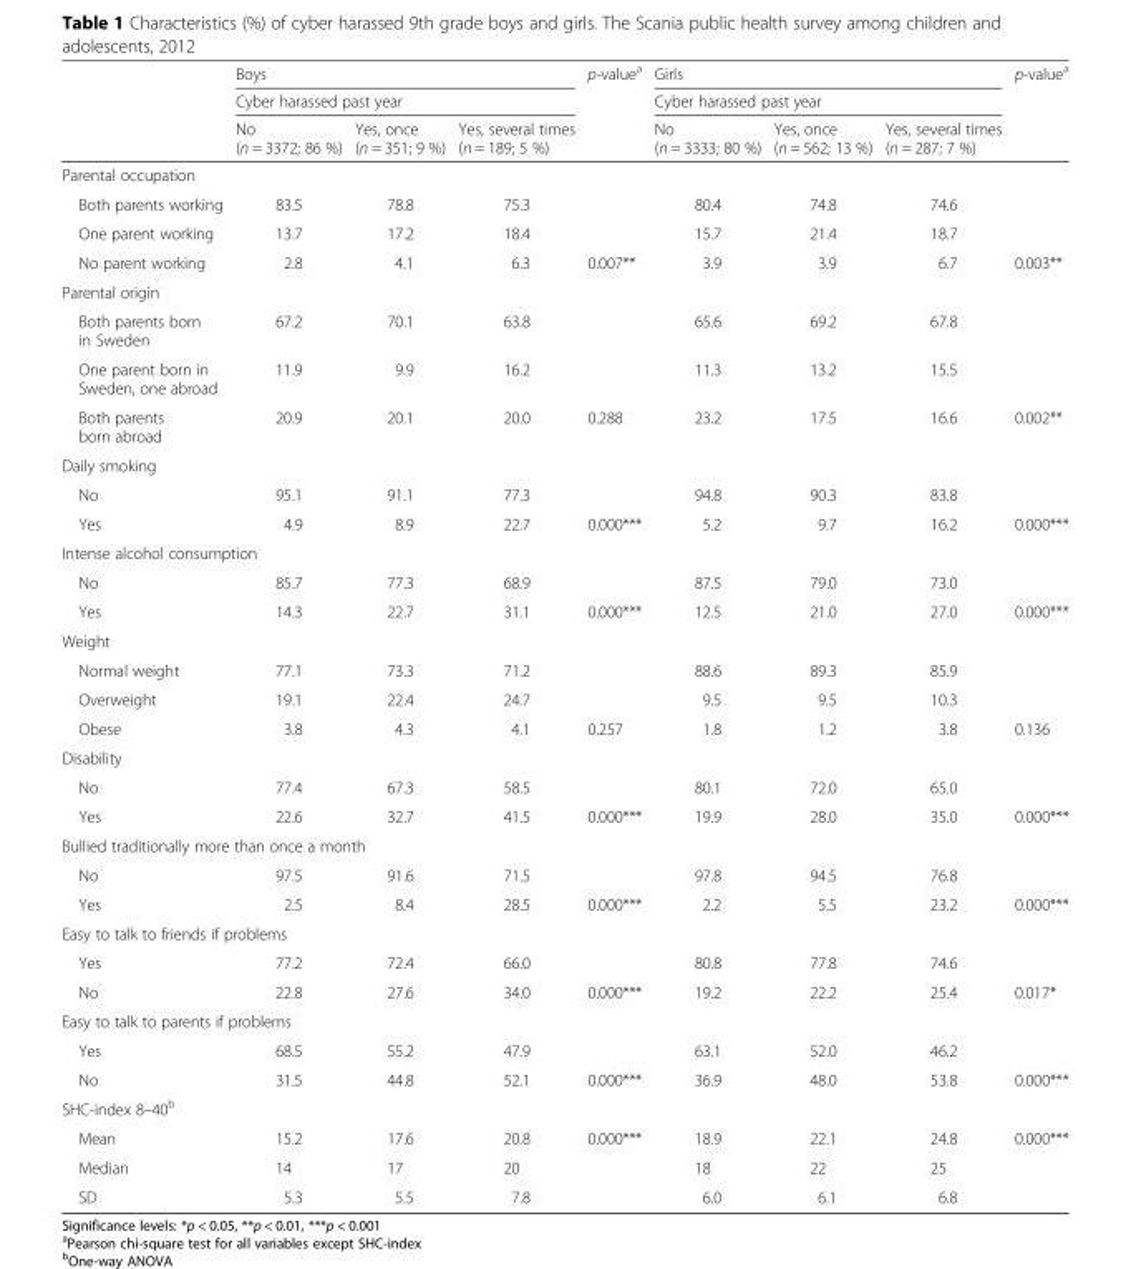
<table><thead><tr><td rowspan="3"></td><td rowspan="2" colspan="3">Boys Cyber harassed past year</td><td rowspan="3">p-value<sup>a</sup></td><td rowspan="2" colspan="3">Girls Cyber harassed past year</td><td rowspan="3">p-value<sup>a</sup></td></tr><tr></tr><tr><td>No (n = 3372; 86 %)</td><td>Yes, once (n = 351; 9 %)</td><td>Yes, several times (n = 189; 5 %)</td><td>No (n = 3333; 80 %)</td><td>Yes, once (n = 562; 13 %)</td><td>Yes, several times (n = 287; 7 %)</td></tr></thead><tbody><tr><td colspan="9">Parental occupation</td></tr><tr><td>Both parents working</td><td>83.5</td><td>78.8</td><td>75.3</td><td></td><td>80.4</td><td>74.8</td><td>74.6</td><td></td></tr><tr><td>One parent working</td><td>13.7</td><td>17.2</td><td>18.4</td><td></td><td>15.7</td><td>21.4</td><td>18.7</td><td></td></tr><tr><td>No parent working</td><td>2.8</td><td>4.1</td><td>6.3</td><td>0.007**</td><td>3.9</td><td>3.9</td><td>6.7</td><td>0.003**</td></tr><tr><td colspan="9">Parental origin</td></tr><tr><td>Both parents born in Sweden</td><td>67.2</td><td>70.1</td><td>63.8</td><td></td><td>65.6</td><td>69.2</td><td>67.8</td><td></td></tr><tr><td>One parent born in Sweden, one abroad</td><td>11.9</td><td>9.9</td><td>16.2</td><td></td><td>11.3</td><td>13.2</td><td>15.5</td><td></td></tr><tr><td>Both parents born abroad</td><td>20.9</td><td>20.1</td><td>20.0</td><td>0.288</td><td>23.2</td><td>17.5</td><td>16.6</td><td>0.002**</td></tr><tr><td colspan="9">Daily smoking</td></tr><tr><td>No</td><td>95.1</td><td>91.1</td><td>77.3</td><td></td><td>94.8</td><td>90.3</td><td>83.8</td><td></td></tr><tr><td>Yes</td><td>4.9</td><td>8.9</td><td>22.7</td><td>0.000***</td><td>5.2</td><td>9.7</td><td>16.2</td><td>0.000***</td></tr><tr><td colspan="9">Intense alcohol consumption</td></tr><tr><td>No</td><td>85.7</td><td>77.3</td><td>68.9</td><td></td><td>87.5</td><td>79.0</td><td>73.0</td><td></td></tr><tr><td>Yes</td><td>14.3</td><td>22.7</td><td>31.1</td><td>0.000***</td><td>12.5</td><td>21.0</td><td>27.0</td><td>0.000***</td></tr><tr><td colspan="9">Weight</td></tr><tr><td>Normal weight</td><td>77.1</td><td>73.3</td><td>71.2</td><td></td><td>88.6</td><td>89.3</td><td>85.9</td><td></td></tr><tr><td>Overweight</td><td>19.1</td><td>22.4</td><td>24.7</td><td></td><td>9.5</td><td>9.5</td><td>10.3</td><td></td></tr><tr><td>Obese</td><td>3.8</td><td>4.3</td><td>4.1</td><td>0.257</td><td>1.8</td><td>1.2</td><td>3.8</td><td>0.136</td></tr><tr><td colspan="9">Disability</td></tr><tr><td>No</td><td>77.4</td><td>67.3</td><td>58.5</td><td></td><td>80.1</td><td>72.0</td><td>65.0</td><td></td></tr><tr><td>Yes</td><td>22.6</td><td>32.7</td><td>41.5</td><td>0.000***</td><td>19.9</td><td>28.0</td><td>35.0</td><td>0.000***</td></tr><tr><td colspan="9">Bullied traditionally more than once a month</td></tr><tr><td>No</td><td>97.5</td><td>91.6</td><td>71.5</td><td></td><td>97.8</td><td>94.5</td><td>76.8</td><td></td></tr><tr><td>Yes</td><td>2.5</td><td>8.4</td><td>28.5</td><td>0.000***</td><td>2.2</td><td>5.5</td><td>23.2</td><td>0.000***</td></tr><tr><td colspan="9">Easy to talk to friends if problems</td></tr><tr><td>Yes</td><td>77.2</td><td>72.4</td><td>66.0</td><td></td><td>80.8</td><td>77.8</td><td>74.6</td><td></td></tr><tr><td>No</td><td>22.8</td><td>27.6</td><td>34.0</td><td>0.000***</td><td>19.2</td><td>22.2</td><td>25.4</td><td>0.017*</td></tr><tr><td colspan="9">Easy to talk to parents if problems</td></tr><tr><td>Yes</td><td>68.5</td><td>55.2</td><td>47.9</td><td></td><td>63.1</td><td>52.0</td><td>46.2</td><td></td></tr><tr><td>No</td><td>31.5</td><td>44.8</td><td>52.1</td><td>0.000***</td><td>36.9</td><td>48.0</td><td>53.8</td><td>0.000***</td></tr><tr><td colspan="9">SHC-index 8–40<sup>b</sup></td></tr><tr><td>Mean</td><td>15.2</td><td>17.6</td><td>20.8</td><td>0.000***</td><td>18.9</td><td>22.1</td><td>24.8</td><td>0.000***</td></tr><tr><td>Median</td><td>14</td><td>17</td><td>20</td><td></td><td>18</td><td>22</td><td>25</td><td></td></tr><tr><td>SD</td><td>5.3</td><td>5.5</td><td>7.8</td><td></td><td>6.0</td><td>6.1</td><td>6.8</td><td></td></tr></tbody></table>